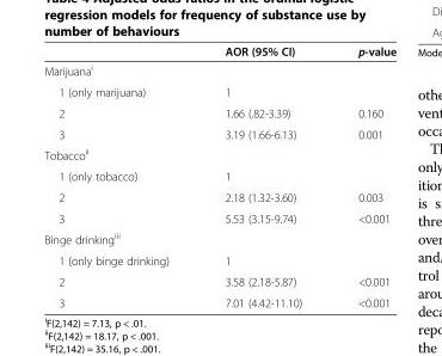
<table><thead><tr><td></td><td>AOR (95% CI)</td><td>p-value</td></tr></thead><tbody><tr><td colspan="3">Marijuana<sup>i</sup></td></tr><tr><td>1 (only marijuana)</td><td>1</td><td></td></tr><tr><td>2</td><td>1.66 (.82-3.39)</td><td>0.160</td></tr><tr><td>3</td><td>3.19 (1.66-6.13)</td><td>0.001</td></tr><tr><td colspan="3">Tobacco<sup>ii</sup></td></tr><tr><td>1 (only tobacco)</td><td>1</td><td></td></tr><tr><td>2</td><td>2.18 (1.32-3.60)</td><td>0.003</td></tr><tr><td>3</td><td>5.53 (3.15-9.74)</td><td>&lt;0.001</td></tr><tr><td colspan="3">Binge drinking<sup>iii</sup></td></tr><tr><td>1 (only binge drinking)</td><td>1</td><td></td></tr><tr><td>2</td><td>3.58 (2.18-5.87)</td><td>&lt;0.001</td></tr><tr><td>3</td><td>7.01 (4.42-11.10)</td><td>&lt;0.001</td></tr></tbody></table>